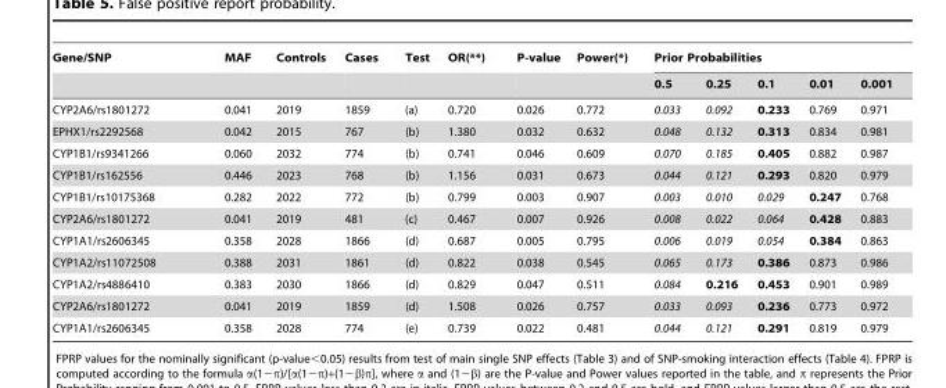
<table><thead><tr><td rowspan="2">Gene/SNP</td><td rowspan="2">MAF</td><td rowspan="2">Controls</td><td rowspan="2">Cases</td><td rowspan="2">Test</td><td rowspan="2">OR(**)</td><td rowspan="2">P-value</td><td rowspan="2">Power(*)</td><td colspan="5">Prior Probabilities</td></tr><tr><td>0.5</td><td>0.25</td><td>0.1</td><td>0.01</td><td>0.001</td></tr></thead><tbody><tr><td>CYP2A6/rs1801272</td><td>0.041</td><td>2019</td><td>1859</td><td>(a)</td><td>0.720</td><td>0.026</td><td>0.772</td><td>0.033</td><td>0.092</td><td>0.233</td><td>0.769</td><td>0.971</td></tr><tr><td>EPHX1/rs2292568</td><td>0.042</td><td>2015</td><td>767</td><td>(b)</td><td>1.380</td><td>0.032</td><td>0.632</td><td>0.048</td><td>0.132</td><td>0.313</td><td>0.834</td><td>0.981</td></tr><tr><td>CYP1B1/rs9341266</td><td>0.060</td><td>2032</td><td>774</td><td>(b)</td><td>0.741</td><td>0.046</td><td>0.609</td><td>0.070</td><td>0.185</td><td>0.405</td><td>0.882</td><td>0.987</td></tr><tr><td>CYP1B1/rs162556</td><td>0.446</td><td>2023</td><td>768</td><td>(b)</td><td>1.156</td><td>0.031</td><td>0.673</td><td>0.044</td><td>0.121</td><td>0.293</td><td>0.820</td><td>0.979</td></tr><tr><td>CYP1B1/rs10175368</td><td>0.282</td><td>2022</td><td>772</td><td>(b)</td><td>0.799</td><td>0.003</td><td>0.907</td><td>0.003</td><td>0.010</td><td>0.029</td><td>0.247</td><td>0.768</td></tr><tr><td>CYP2A6/rs1801272</td><td>0.041</td><td>2019</td><td>481</td><td>(c)</td><td>0.467</td><td>0.007</td><td>0.926</td><td>0.008</td><td>0.022</td><td>0.064</td><td>0.428</td><td>0.883</td></tr><tr><td>CYP1A1/rs2606345</td><td>0.358</td><td>2028</td><td>1866</td><td>(d)</td><td>0.687</td><td>0.005</td><td>0.795</td><td>0.006</td><td>0.019</td><td>0.054</td><td>0.384</td><td>0.863</td></tr><tr><td>CYP1A2/rs11072508</td><td>0.388</td><td>2031</td><td>1861</td><td>(d)</td><td>0.822</td><td>0.038</td><td>0.545</td><td>0.065</td><td>0.173</td><td>0.386</td><td>0.873</td><td>0.986</td></tr><tr><td>CYP1A2/rs4886410</td><td>0.383</td><td>2030</td><td>1866</td><td>(d)</td><td>0.829</td><td>0.047</td><td>0.511</td><td>0.084</td><td>0.216</td><td>0.453</td><td>0.901</td><td>0.989</td></tr><tr><td>CYP2A6/rs1801272</td><td>0.041</td><td>2019</td><td>1859</td><td>(d)</td><td>1.508</td><td>0.026</td><td>0.757</td><td>0.033</td><td>0.093</td><td>0.236</td><td>0.773</td><td>0.972</td></tr><tr><td>CYP1A1/rs2606345</td><td>0.358</td><td>2028</td><td>774</td><td>(e)</td><td>0.739</td><td>0.022</td><td>0.481</td><td>0.044</td><td>0.121</td><td>0.291</td><td>0.819</td><td>0.979</td></tr></tbody></table>